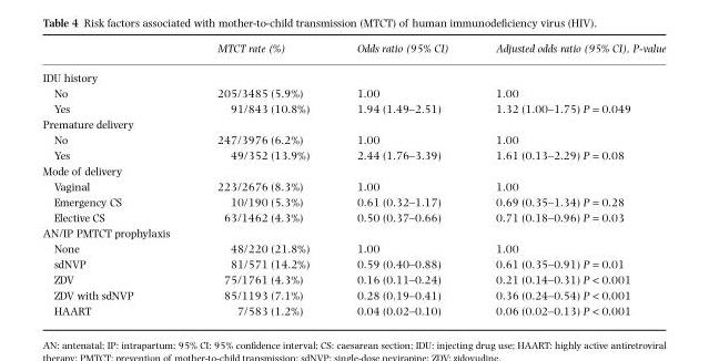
<table><thead><tr><td></td><td>MTCT rate (%)</td><td>Odds ratio (95% CI)</td><td>Adjusted odds ratio (95% CI), P-value</td></tr></thead><tbody><tr><td colspan="4">IDU history</td></tr><tr><td>No</td><td>205/3485 (5.9%)</td><td>1.00</td><td>1.00</td></tr><tr><td>Yes</td><td>91/843 (10.8%)</td><td>1.94 (1.49–2.51)</td><td>1.32 (1.00–1.75) P = 0.049</td></tr><tr><td colspan="4">Premature delivery</td></tr><tr><td>No</td><td>247/3976 (6.2%)</td><td>1.00</td><td>1.00</td></tr><tr><td>Yes</td><td>49/352 (13.9%)</td><td>2.44 (1.76–3.39)</td><td>1.61 (0.13–2.29) P = 0.08</td></tr><tr><td colspan="4">Mode of delivery</td></tr><tr><td>Vaginal</td><td>223/2676 (8.3%)</td><td>1.00</td><td>1.00</td></tr><tr><td>Emergency CS</td><td>10/190 (5.3%)</td><td>0.61 (0.32–1.17)</td><td>0.69 (0.35–1.34) P = 0.28</td></tr><tr><td>Elective CS</td><td>63/1462 (4.3%)</td><td>0.50 (0.37–0.66)</td><td>0.71 (0.18–0.96) P = 0.03</td></tr><tr><td colspan="4">AN/IP PMTCT prophylaxis</td></tr><tr><td>None</td><td>48/220 (21.8%)</td><td>1.00</td><td>1.00</td></tr><tr><td>sdNVP</td><td>81/571 (14.2%)</td><td>0.59 (0.40–0.88)</td><td>0.61 (0.35–0.91) P = 0.01</td></tr><tr><td>ZDV</td><td>75/1761 (4.3%)</td><td>0.16 (0.11–0.24)</td><td>0.21 (0.14–0.31) P &lt; 0.001</td></tr><tr><td>ZDV with sdNVP</td><td>85/1193 (7.1%)</td><td>0.28 (0.19–0.41)</td><td>0.36 (0.24–0.54) P &lt; 0.001</td></tr><tr><td>HAART</td><td>7/583 (1.2%)</td><td>0.04 (0.02–0.10)</td><td>0.06 (0.02–0.13) P &lt; 0.001</td></tr></tbody></table>